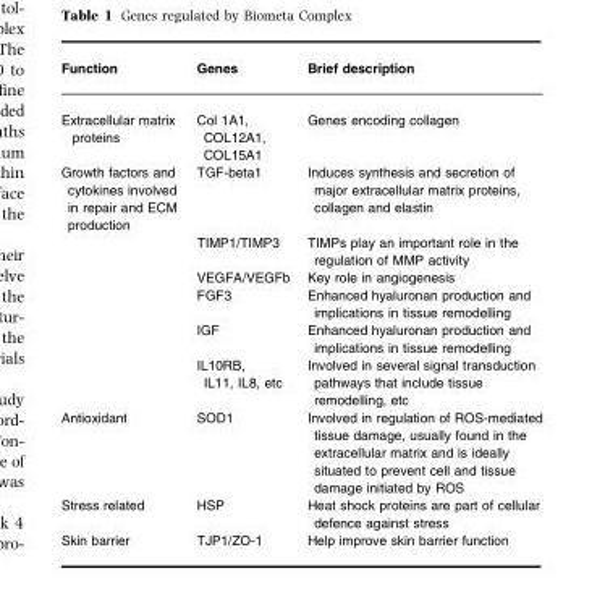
<table><thead><tr><td>Function</td><td>Genes</td><td>Brief description</td></tr></thead><tbody><tr><td>Extracellular matrix proteins</td><td>Col 1A1, COL12A1, COL15A1</td><td>Genes encoding collagen</td></tr><tr><td rowspan="6">Growth factors and cytokines involved in repair and ECM production</td><td>TGF-beta1</td><td>Induces synthesis and secretion of major extracellular matrix proteins, collagen and elastin</td></tr><tr><td>TIMP1/TIMP3</td><td>TIMPs play an important role in the regulation of MMP activity</td></tr><tr><td>VEGFA/VEGFb</td><td>Key role in angiogenesis</td></tr><tr><td>FGF3</td><td>Enhanced hyaluronan production and implications in tissue remodelling</td></tr><tr><td>IGF</td><td>Enhanced hyaluronan production and implications in tissue remodelling</td></tr><tr><td>IL10RB, IL11, IL8, etc</td><td>Involved in several signal transduction pathways that include tissue remodelling, etc</td></tr><tr><td>Antioxidant</td><td>SOD1</td><td>Involved in regulation of ROS-mediated tissue damage, usually found in the extracellular matrix and is ideally situated to prevent cell and tissue damage initiated by ROS</td></tr><tr><td>Stress related</td><td>HSP</td><td>Heat shock proteins are part of cellular defence against stress</td></tr><tr><td>Skin barrier</td><td>TJP1/ZO-1</td><td>Help improve skin barrier function</td></tr></tbody></table>